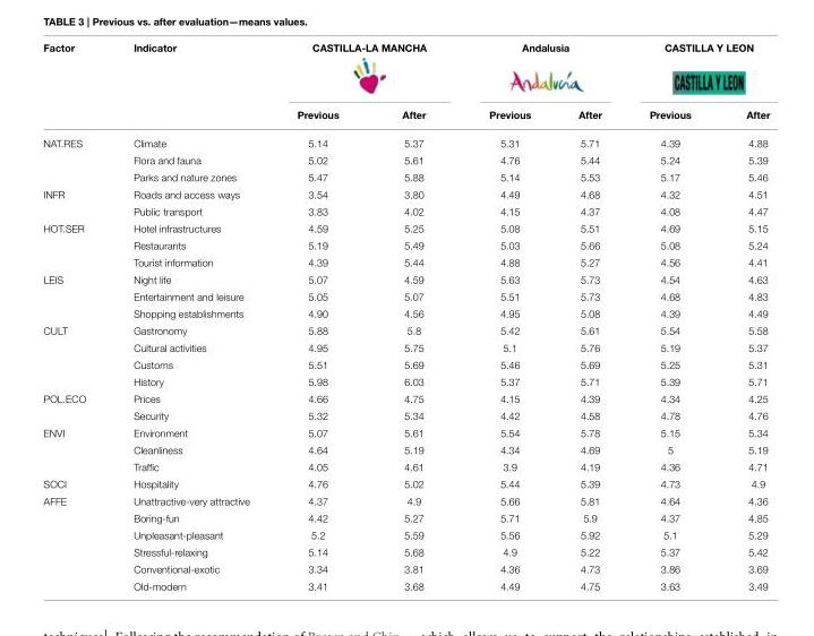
<table><thead><tr><td rowspan="2">Factor</td><td rowspan="2">Indicator</td><td colspan="2">CASTILLA-LA MANCHA</td><td colspan="2">Andalusia</td><td colspan="2">CASTILLA Y LEON</td></tr><tr><td>Previous</td><td>After</td><td>Previous</td><td>After</td><td>Previous</td><td>After</td></tr></thead><tbody><tr><td rowspan="3">NAT.RES</td><td>Climate</td><td>5.14</td><td>5.37</td><td>5.31</td><td>5.71</td><td>4.39</td><td>4.88</td></tr><tr><td>Flora and fauna</td><td>5.02</td><td>5.61</td><td>4.76</td><td>5.44</td><td>5.24</td><td>5.39</td></tr><tr><td>Parks and nature zones</td><td>5.47</td><td>5.88</td><td>5.14</td><td>5.53</td><td>5.17</td><td>5.46</td></tr><tr><td rowspan="2">INFR</td><td>Roads and access ways</td><td>3.54</td><td>3.80</td><td>4.49</td><td>4.68</td><td>4.32</td><td>4.51</td></tr><tr><td>Public transport</td><td>3.83</td><td>4.02</td><td>4.15</td><td>4.37</td><td>4.08</td><td>4.47</td></tr><tr><td rowspan="3">HOT.SER</td><td>Hotel infrastructures</td><td>4.59</td><td>5.25</td><td>5.08</td><td>5.51</td><td>4.69</td><td>5.15</td></tr><tr><td>Restaurants</td><td>5.19</td><td>5.49</td><td>5.03</td><td>5.66</td><td>5.08</td><td>5.24</td></tr><tr><td>Tourist information</td><td>4.39</td><td>5.44</td><td>4.88</td><td>5.27</td><td>4.56</td><td>4.41</td></tr><tr><td rowspan="3">LEIS</td><td>Night life</td><td>5.07</td><td>4.59</td><td>5.63</td><td>5.73</td><td>4.54</td><td>4.63</td></tr><tr><td>Entertainment and leisure</td><td>5.05</td><td>5.07</td><td>5.51</td><td>5.73</td><td>4.68</td><td>4.83</td></tr><tr><td>Shopping establishments</td><td>4.90</td><td>4.56</td><td>4.95</td><td>5.08</td><td>4.39</td><td>4.49</td></tr><tr><td rowspan="4">CULT</td><td>Gastronomy</td><td>5.88</td><td>5.8</td><td>5.42</td><td>5.61</td><td>5.54</td><td>5.58</td></tr><tr><td>Cultural activities</td><td>4.95</td><td>5.75</td><td>5.1</td><td>5.76</td><td>5.19</td><td>5.37</td></tr><tr><td>Customs</td><td>5.51</td><td>5.69</td><td>5.46</td><td>5.69</td><td>5.25</td><td>5.31</td></tr><tr><td>History</td><td>5.98</td><td>6.03</td><td>5.37</td><td>5.71</td><td>5.39</td><td>5.71</td></tr><tr><td rowspan="2">POL.ECO</td><td>Prices</td><td>4.66</td><td>4.75</td><td>4.15</td><td>4.39</td><td>4.34</td><td>4.25</td></tr><tr><td>Security</td><td>5.32</td><td>5.34</td><td>4.42</td><td>4.58</td><td>4.78</td><td>4.76</td></tr><tr><td rowspan="3">ENVI</td><td>Environment</td><td>5.07</td><td>5.61</td><td>5.54</td><td>5.78</td><td>5.15</td><td>5.34</td></tr><tr><td>Cleanliness</td><td>4.64</td><td>5.19</td><td>4.34</td><td>4.69</td><td>5</td><td>5.19</td></tr><tr><td>Traffic</td><td>4.05</td><td>4.61</td><td>3.9</td><td>4.19</td><td>4.36</td><td>4.71</td></tr><tr><td>SOCI</td><td>Hospitality</td><td>4.76</td><td>5.02</td><td>5.44</td><td>5.39</td><td>4.73</td><td>4.9</td></tr><tr><td rowspan="6">AFFE</td><td>Unattractive-very attractive</td><td>4.37</td><td>4.9</td><td>5.66</td><td>5.81</td><td>4.64</td><td>4.36</td></tr><tr><td>Boring-fun</td><td>4.42</td><td>5.27</td><td>5.71</td><td>5.9</td><td>4.37</td><td>4.85</td></tr><tr><td>Unpleasant-pleasant</td><td>5.2</td><td>5.59</td><td>5.56</td><td>5.92</td><td>5.1</td><td>5.29</td></tr><tr><td>Stressful-relaxing</td><td>5.14</td><td>5.68</td><td>4.9</td><td>5.22</td><td>5.37</td><td>5.42</td></tr><tr><td>Conventional-exotic</td><td>3.34</td><td>3.81</td><td>4.36</td><td>4.73</td><td>3.86</td><td>3.69</td></tr><tr><td>Old-modern</td><td>3.41</td><td>3.68</td><td>4.49</td><td>4.75</td><td>3.63</td><td>3.49</td></tr></tbody></table>